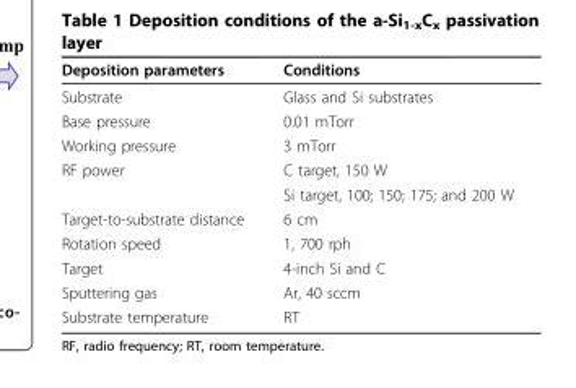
<table><thead><tr><td>Deposition parameters</td><td>Conditions</td></tr></thead><tbody><tr><td>Substrate</td><td>Glass and Si substrates</td></tr><tr><td>Base pressure</td><td>0.01 mTorr</td></tr><tr><td>Working pressure</td><td>3 mTorr</td></tr><tr><td rowspan="2">RF power</td><td>C target, 150 W</td></tr><tr><td>Si target, 100; 150; 175; and 200 W</td></tr><tr><td>Target-to-substrate distance</td><td>6 cm</td></tr><tr><td>Rotation speed</td><td>1, 700 rph</td></tr><tr><td>Target</td><td>4-inch Si and C</td></tr><tr><td>Sputtering gas</td><td>Ar, 40 sccm</td></tr><tr><td>Substrate temperature</td><td>RT</td></tr></tbody></table>